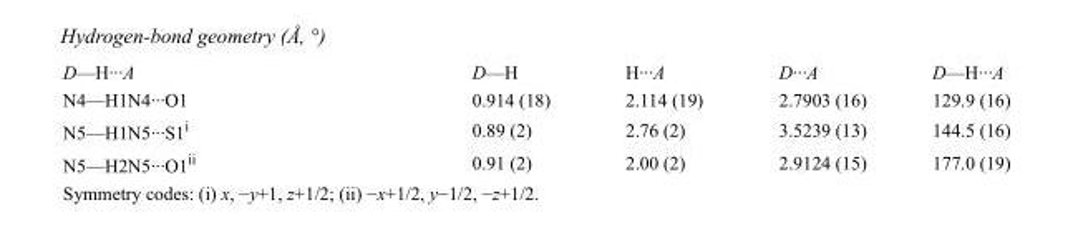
<table><tbody><tr><td>D—H···A</td><td>D—H</td><td>H···A</td><td>D···A</td><td>D—H···A</td></tr><tr><td>N4—H1N4···O1</td><td>0.914 (18)</td><td>2.114 (19)</td><td>2.7903 (16)</td><td>129.9 (16)</td></tr><tr><td>N5—H1N5···S1<sup>i</sup></td><td>0.89 (2)</td><td>2.76 (2)</td><td>3.5239 (13)</td><td>144.5 (16)</td></tr><tr><td>N5—H2N5···O1<sup>ii</sup></td><td>0.91 (2)</td><td>2.00 (2)</td><td>2.9124 (15)</td><td>177.0 (19)</td></tr></tbody></table>